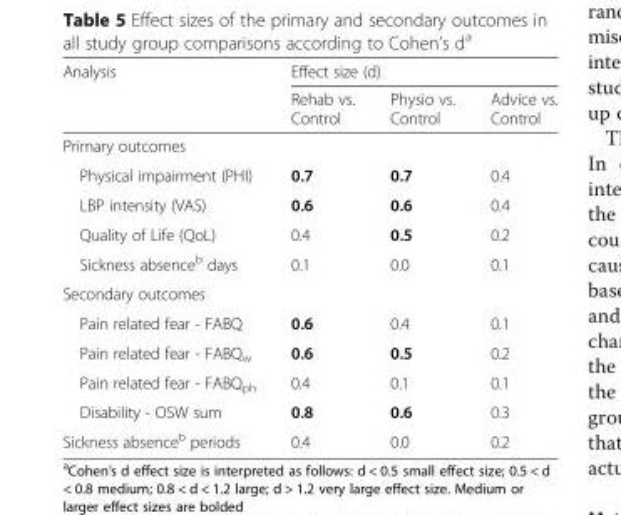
<table><thead><tr><td rowspan="2">Analysis</td><td colspan="3">Effect size (d)</td></tr><tr><td>Rehab vs. Control</td><td>Physio vs. Control</td><td>Advice vs. Control</td></tr></thead><tbody><tr><td colspan="4">Primary outcomes</td></tr><tr><td>Physical impairment (PHI)</td><td>0.7</td><td>0.7</td><td>0.4</td></tr><tr><td>LBP intensity (VAS)</td><td>0.6</td><td>0.6</td><td>0.4</td></tr><tr><td>Quality of Life (QoL)</td><td>0.4</td><td>0.5</td><td>0.2</td></tr><tr><td>Sickness absence<sup>b</sup> days</td><td>0.1</td><td>0.0</td><td>0.1</td></tr><tr><td colspan="4">Secondary outcomes</td></tr><tr><td>Pain related fear - FABQ</td><td>0.6</td><td>0.4</td><td>0.1</td></tr><tr><td>Pain related fear - FABQ<sub>w</sub></td><td>0.6</td><td>0.5</td><td>0.2</td></tr><tr><td>Pain related fear - FABQ<sub>ph</sub></td><td>0.4</td><td>0.1</td><td>0.1</td></tr><tr><td>Disability - OSW sum</td><td>0.8</td><td>0.6</td><td>0.3</td></tr><tr><td>Sickness absence<sup>b</sup> periods</td><td>0.4</td><td>0.0</td><td>0.2</td></tr></tbody></table>